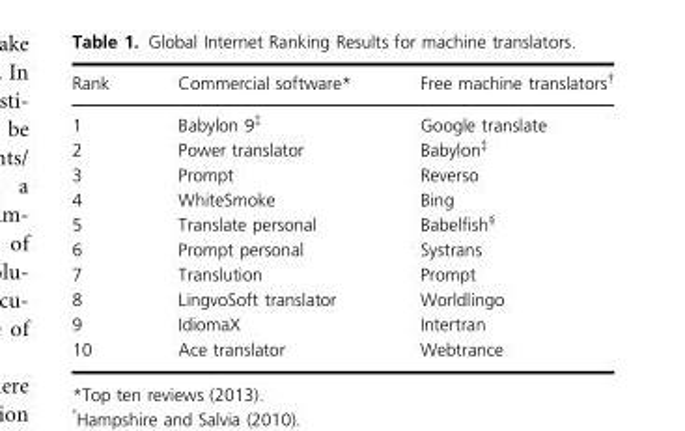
<table><thead><tr><td>Rank</td><td>Commercial software*</td><td>Free machine translators†</td></tr></thead><tbody><tr><td>1</td><td>Babylon 9‡</td><td>Google translate</td></tr><tr><td>2</td><td>Power translator</td><td>Babylon‡</td></tr><tr><td>3</td><td>Prompt</td><td>Reverso</td></tr><tr><td>4</td><td>WhiteSmoke</td><td>Bing</td></tr><tr><td>5</td><td>Translate personal</td><td>Babelfish§</td></tr><tr><td>6</td><td>Prompt personal</td><td>Systrans</td></tr><tr><td>7</td><td>Translution</td><td>Prompt</td></tr><tr><td>8</td><td>LingvoSoft translator</td><td>Worldlingo</td></tr><tr><td>9</td><td>IdiomaX</td><td>Intertran</td></tr><tr><td>10</td><td>Ace translator</td><td>Webtrance</td></tr></tbody></table>